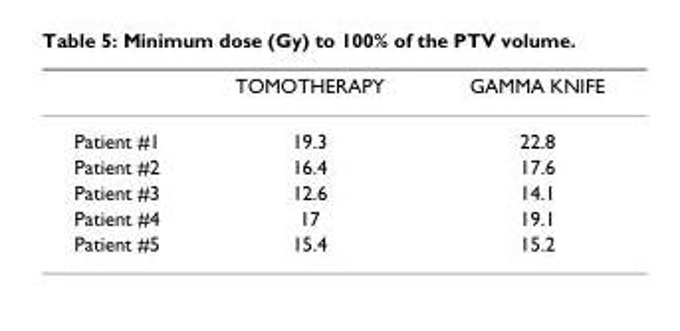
<table><thead><tr><td></td><td>TOMOTHERAPY</td><td>GAMMA KNIFE</td></tr></thead><tbody><tr><td>Patient #1</td><td>19.3</td><td>22.8</td></tr><tr><td>Patient #2</td><td>16.4</td><td>17.6</td></tr><tr><td>Patient #3</td><td>12.6</td><td>14.1</td></tr><tr><td>Patient #4</td><td>17</td><td>19.1</td></tr><tr><td>Patient #5</td><td>15.4</td><td>15.2</td></tr></tbody></table>